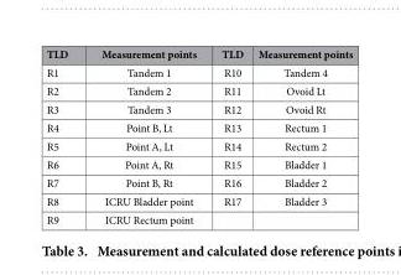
<table><thead><tr><td>TLD</td><td>Measurement points</td><td>TLD</td><td>Measurement points</td></tr></thead><tbody><tr><td>R1</td><td>Tandem 1</td><td>R10</td><td>Tandem 4</td></tr><tr><td>R2</td><td>Tandem 2</td><td>R11</td><td>Ovoid Lt</td></tr><tr><td>R3</td><td>Tandem 3</td><td>R12</td><td>Ovoid Rt</td></tr><tr><td>R4</td><td>Point B, Lt</td><td>R13</td><td>Rectum 1</td></tr><tr><td>R5</td><td>Point A, Lt</td><td>R14</td><td>Rectum 2</td></tr><tr><td>R6</td><td>Point A, Rt</td><td>R15</td><td>Bladder 1</td></tr><tr><td>R7</td><td>Point B, Rt</td><td>R16</td><td>Bladder 2</td></tr><tr><td>R8</td><td>ICRU Bladder point</td><td>R17</td><td>Bladder 3</td></tr><tr><td>R9</td><td>ICRU Rectum point</td><td></td><td></td></tr></tbody></table>